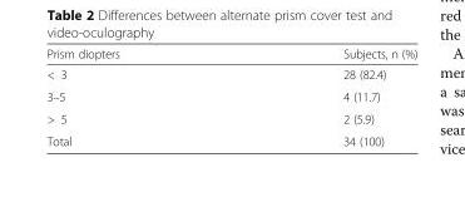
<table><thead><tr><td>Prism diopters</td><td>Subjects, n (%)</td></tr></thead><tbody><tr><td>&lt; 3</td><td>28 (82.4)</td></tr><tr><td>3–5</td><td>4 (11.7)</td></tr><tr><td>&gt; 5</td><td>2 (5.9)</td></tr><tr><td>Total</td><td>34 (100)</td></tr></tbody></table>